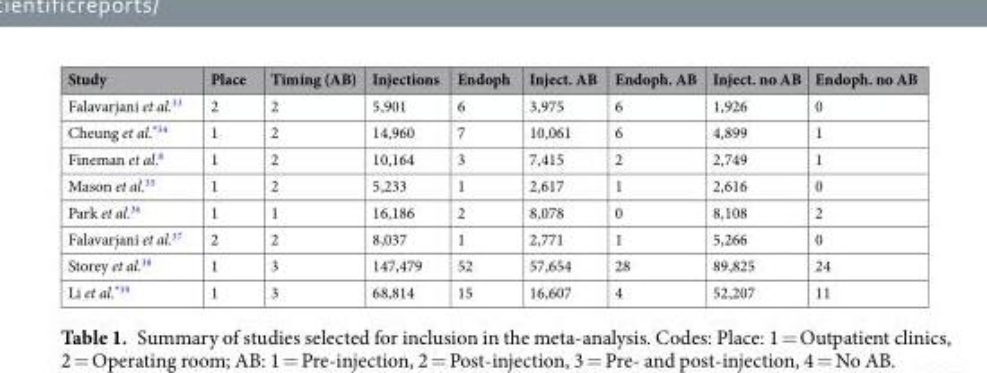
<table><thead><tr><td>Study</td><td>Place</td><td>Timing (AB)</td><td>Injections</td><td>Endoph</td><td>Inject. AB</td><td>Endoph. AB</td><td>Inject. no AB</td><td>Endoph. no AB</td></tr></thead><tbody><tr><td>Falavarjani et al.<sup>33</sup></td><td>2</td><td>2</td><td>5,901</td><td>6</td><td>3,975</td><td>6</td><td>1,926</td><td>0</td></tr><tr><td>Cheung et al.<sup>*34</sup></td><td>1</td><td>2</td><td>14,960</td><td>7</td><td>10,061</td><td>6</td><td>4,899</td><td>1</td></tr><tr><td>Fineman et al.<sup>8</sup></td><td>1</td><td>2</td><td>10,164</td><td>3</td><td>7,415</td><td>2</td><td>2,749</td><td>1</td></tr><tr><td>Mason et al.<sup>35</sup></td><td>1</td><td>2</td><td>5,233</td><td>1</td><td>2,617</td><td>1</td><td>2,616</td><td>0</td></tr><tr><td>Park et al.<sup>36</sup></td><td>1</td><td>1</td><td>16,186</td><td>2</td><td>8,078</td><td>0</td><td>8,108</td><td>2</td></tr><tr><td>Falavarjani et al.<sup>37</sup></td><td>2</td><td>2</td><td>8,037</td><td>1</td><td>2,771</td><td>1</td><td>5,266</td><td>0</td></tr><tr><td>Storey et al.<sup>38</sup></td><td>1</td><td>3</td><td>147,479</td><td>52</td><td>57,654</td><td>28</td><td>89,825</td><td>24</td></tr><tr><td>Li et al.<sup>*39</sup></td><td>1</td><td>3</td><td>68,814</td><td>15</td><td>16,607</td><td>4</td><td>52,207</td><td>11</td></tr></tbody></table>